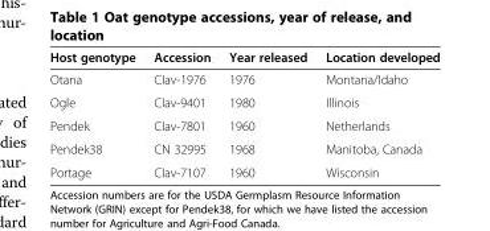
<table><thead><tr><td>Host genotype</td><td>Accession</td><td>Year released</td><td>Location developed</td></tr></thead><tbody><tr><td>Otana</td><td>CIav-1976</td><td>1976</td><td>Montana/Idaho</td></tr><tr><td>Ogle</td><td>CIav-9401</td><td>1980</td><td>Illinois</td></tr><tr><td>Pendek</td><td>CIav-7801</td><td>1960</td><td>Netherlands</td></tr><tr><td>Pendek38</td><td>CN 32995</td><td>1968</td><td>Manitoba, Canada</td></tr><tr><td>Portage</td><td>CIav-7107</td><td>1960</td><td>Wisconsin</td></tr></tbody></table>